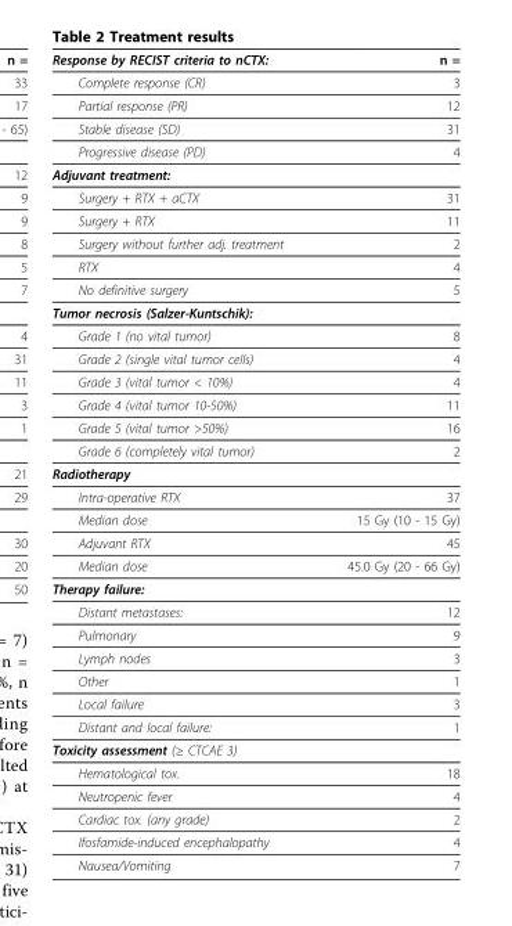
<table><thead><tr><td>Response by RECIST criteria to nCTX:</td><td>n =</td></tr></thead><tbody><tr><td>Complete response (CR)</td><td>3</td></tr><tr><td>Partial response (PR)</td><td>12</td></tr><tr><td>Stable disease (SD)</td><td>31</td></tr><tr><td>Progressive disease (PD)</td><td>4</td></tr><tr><td colspan="2">Adjuvant treatment:</td></tr><tr><td>Surgery + RTX + aCTX</td><td>31</td></tr><tr><td>Surgery + RTX</td><td>11</td></tr><tr><td>Surgery without further adj. treatment</td><td>2</td></tr><tr><td>RTX</td><td>4</td></tr><tr><td>No definitive surgery</td><td>5</td></tr><tr><td colspan="2">Tumor necrosis (Salzer-Kuntschik):</td></tr><tr><td>Grade 1 (no vital tumor)</td><td>8</td></tr><tr><td>Grade 2 (single vital tumor cells)</td><td>4</td></tr><tr><td>Grade 3 (vital tumor &lt; 10%)</td><td>4</td></tr><tr><td>Grade 4 (vital tumor 10-50%)</td><td>11</td></tr><tr><td>Grade 5 (vital tumor &gt;50%)</td><td>16</td></tr><tr><td>Grade 6 (completely vital tumor)</td><td>2</td></tr><tr><td colspan="2">Radiotherapy</td></tr><tr><td>Intra-operative RTX</td><td>37</td></tr><tr><td>Median dose</td><td>15 Gy (10 - 15 Gy)</td></tr><tr><td>Adjuvant RTX</td><td>45</td></tr><tr><td>Median dose</td><td>45.0 Gy (20 - 66 Gy)</td></tr><tr><td colspan="2">Therapy failure:</td></tr><tr><td>Distant metastases:</td><td>12</td></tr><tr><td>Pulmonary</td><td>9</td></tr><tr><td>Lymph nodes</td><td>3</td></tr><tr><td>Other</td><td>1</td></tr><tr><td>Local failure</td><td>3</td></tr><tr><td>Distant and local failure:</td><td>1</td></tr><tr><td colspan="2">Toxicity assessment (≥ CTCAE 3)</td></tr><tr><td>Hematological tox.</td><td>18</td></tr><tr><td>Neutropenic fever</td><td>4</td></tr><tr><td>Cardiac tox. (any grade)</td><td>2</td></tr><tr><td>Ifosfamide-induced encephalopathy</td><td>4</td></tr><tr><td>Nausea/Vomiting</td><td>7</td></tr></tbody></table>